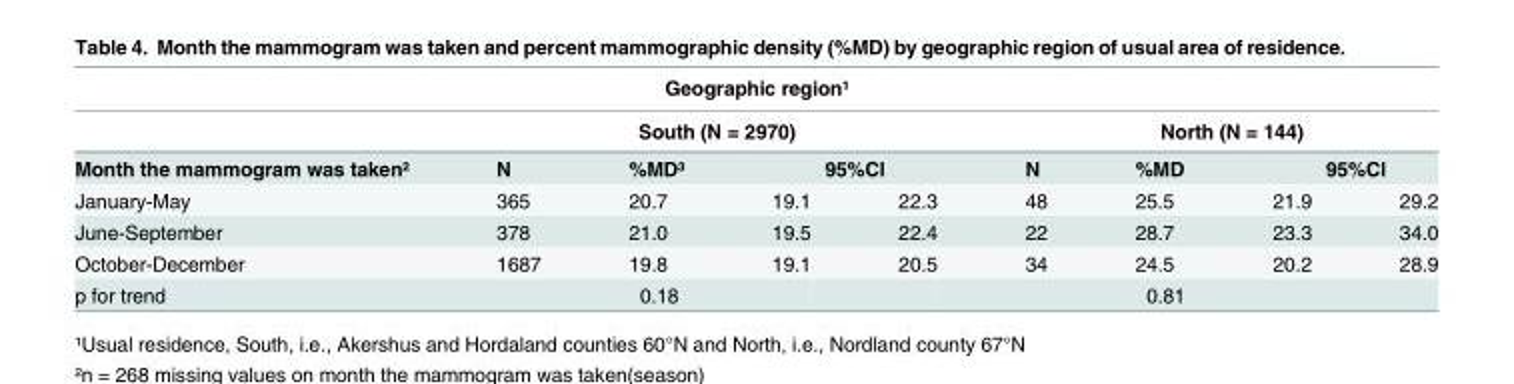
<table><thead><tr><td colspan="9">Geographic region¹</td></tr><tr><td rowspan="3">Month the mammogram was taken² January-May</td><td colspan="4">South (N = 2970)</td><td colspan="4">North (N = 144)</td></tr><tr><td rowspan="2">N 365</td><td rowspan="2">%MD³ 20.7</td><td colspan="2">95%Cl</td><td rowspan="2">N 48</td><td rowspan="2">%MD 25.5</td><td colspan="2">95%Cl</td></tr><tr><td>19.1</td><td>22.3</td><td>21.9</td><td>29.2</td></tr></thead><tbody><tr><td>June-September</td><td>378</td><td>21.0</td><td>19.5</td><td>22.4</td><td>22</td><td>28.7</td><td>23.3</td><td>34.0</td></tr><tr><td>October-December</td><td>1687</td><td>19.8</td><td>19.1</td><td>20.5</td><td>34</td><td>24.5</td><td>20.2</td><td>28.9</td></tr><tr><td>p for trend</td><td></td><td>0.18</td><td></td><td></td><td></td><td>0.81</td><td></td><td></td></tr></tbody></table>